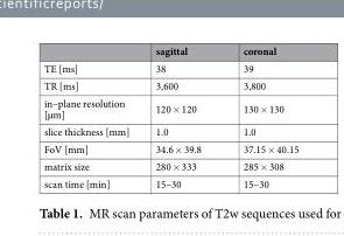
<table><thead><tr><td></td><td>sagittal</td><td>coronal</td></tr></thead><tbody><tr><td>TE [ms]</td><td>38</td><td>39</td></tr><tr><td>TR [ms]</td><td>3,600</td><td>3,800</td></tr><tr><td>in–plane resolution [µm]</td><td>120 × 120</td><td>130 × 130</td></tr><tr><td>slice thickness [mm]</td><td>1.0</td><td>1.0</td></tr><tr><td>FoV [mm]</td><td>34.6 × 39.8</td><td>37.15 × 40.15</td></tr><tr><td>matrix size</td><td>280 × 333</td><td>285 × 308</td></tr><tr><td>scan time [min]</td><td>15–30</td><td>15–30</td></tr></tbody></table>